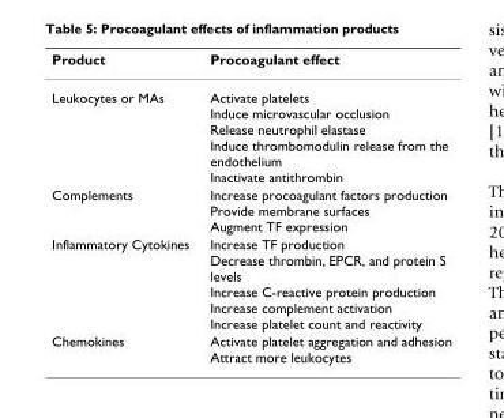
<table><thead><tr><td>Product</td><td>Procoagulant effect</td></tr></thead><tbody><tr><td>Leukocytes or MAs</td><td>Activate platelets Induce microvascular occlusion Release neutrophil elastase Induce thrombomodulin release from the endothelium Inactivate antithrombin</td></tr><tr><td>Complements</td><td>Increase procoagulant factors production Provide membrane surfaces Augment TF expression</td></tr><tr><td>Inflammatory Cytokines</td><td>Increase TF production Decrease thrombin, EPCR, and protein S levels Increase C-reactive protein production Increase complement activation Increase platelet count and reactivity</td></tr><tr><td>Chemokines</td><td>Activate platelet aggregation and adhesion Attract more leukocytes</td></tr></tbody></table>